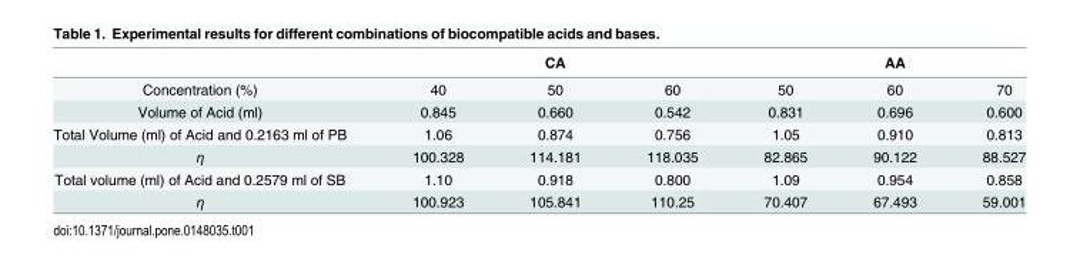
<table><thead><tr><td rowspan="2">Concentration (%)</td><td colspan="3">CA</td><td colspan="3">AA</td></tr><tr><td>40</td><td>50</td><td>60</td><td>50</td><td>60</td><td>70</td></tr></thead><tbody><tr><td>Volume of Acid (ml)</td><td>0.845</td><td>0.660</td><td>0.542</td><td>0.831</td><td>0.696</td><td>0.600</td></tr><tr><td>Total Volume (ml) of Acid and 0.2163 ml of PB</td><td>1.06</td><td>0.874</td><td>0.756</td><td>1.05</td><td>0.910</td><td>0.813</td></tr><tr><td>η</td><td>100.328</td><td>114.181</td><td>118.035</td><td>82.865</td><td>90.122</td><td>88.527</td></tr><tr><td>Total volume (ml) of Acid and 0.2579 ml of SB</td><td>1.10</td><td>0.918</td><td>0.800</td><td>1.09</td><td>0.954</td><td>0.858</td></tr><tr><td>η</td><td>100.923</td><td>105.841</td><td>110.25</td><td>70.407</td><td>67.493</td><td>59.001</td></tr></tbody></table>